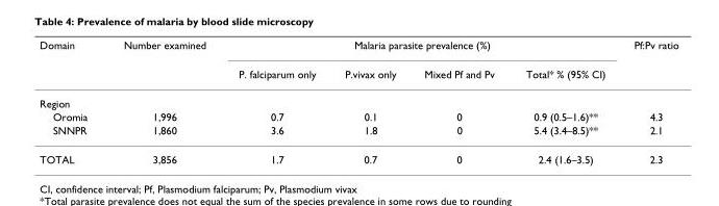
<table><thead><tr><td rowspan="2">Domain</td><td rowspan="2">Number examined</td><td colspan="4">Malaria parasite prevalence (%)</td><td rowspan="2">Pf:Pv ratio</td></tr><tr><td>P. falciparum only</td><td>P.vivax only</td><td>Mixed Pf and Pv</td><td>Total* % (95% CI)</td></tr></thead><tbody><tr><td colspan="7">Region</td></tr><tr><td>Oromia</td><td>1,996</td><td>0.7</td><td>0.1</td><td>0</td><td>0.9 (0.5–1.6)**</td><td>4.3</td></tr><tr><td>SNNPR</td><td>1,860</td><td>3.6</td><td>1.8</td><td>0</td><td>5.4 (3.4–8.5)**</td><td>2.1</td></tr><tr><td>TOTAL</td><td>3,856</td><td>1.7</td><td>0.7</td><td>0</td><td>2.4 (1.6–3.5)</td><td>2.3</td></tr></tbody></table>